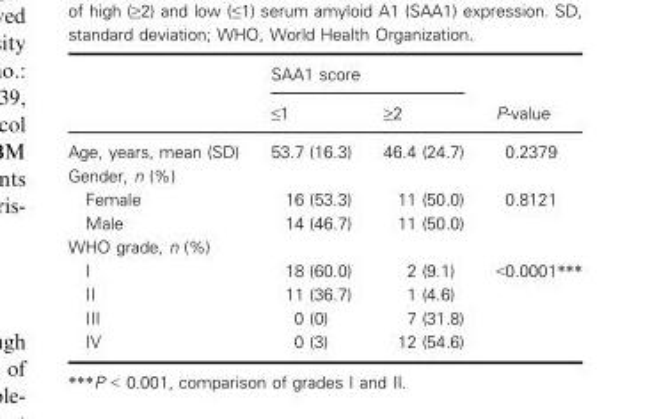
<table><thead><tr><td rowspan="2"></td><td colspan="2">SAA1 score</td><td rowspan="2">P-value</td></tr><tr><td>≤1</td><td>≥2</td></tr></thead><tbody><tr><td>Age, years, mean (SD)</td><td>53.7 (16.3)</td><td>46.4 (24.7)</td><td>0.2379</td></tr><tr><td colspan="4">Gender, n (%)</td></tr><tr><td>Female</td><td>16 (53.3)</td><td>11 (50.0)</td><td>0.8121</td></tr><tr><td>Male</td><td>14 (46.7)</td><td>11 (50.0)</td><td></td></tr><tr><td colspan="4">WHO grade, n (%)</td></tr><tr><td>I</td><td>18 (60.0)</td><td>2 (9.1)</td><td>&lt;0.0001***</td></tr><tr><td>II</td><td>11 (36.7)</td><td>1 (4.6)</td><td></td></tr><tr><td>III</td><td>0 (0)</td><td>7 (31.8)</td><td></td></tr><tr><td>IV</td><td>0 (3)</td><td>12 (54.6)</td><td></td></tr></tbody></table>